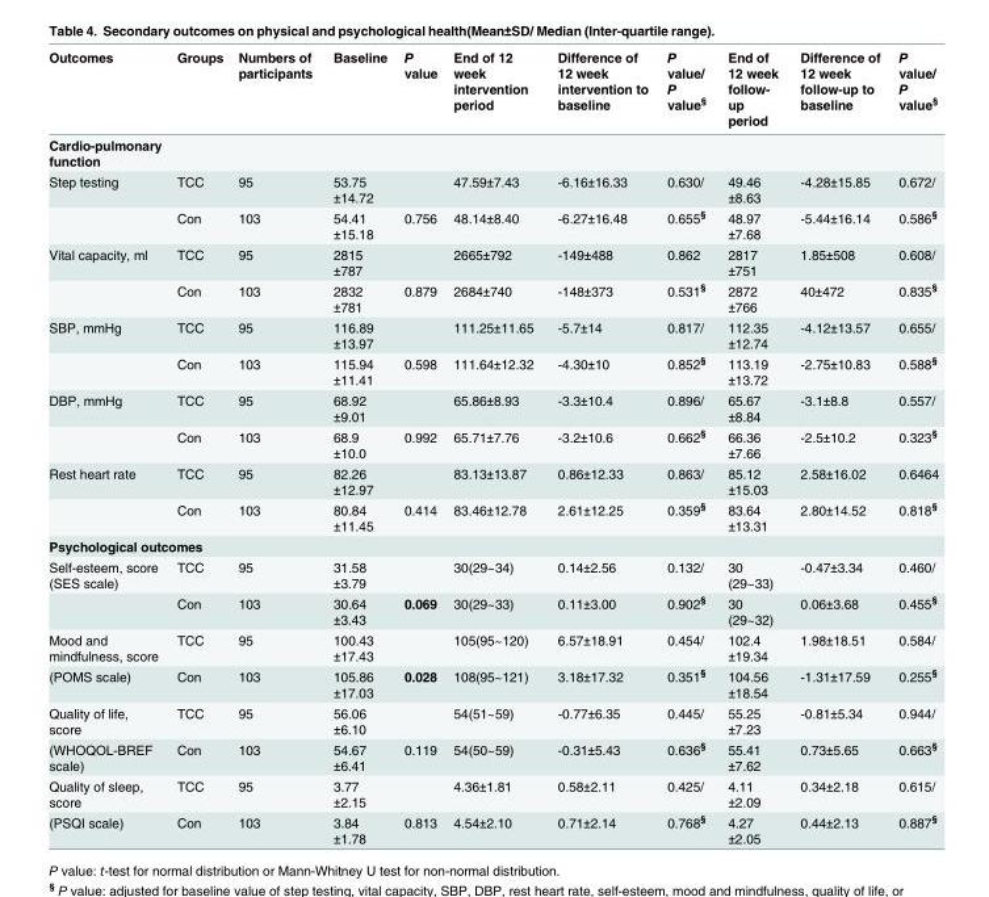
<table><thead><tr><td>Outcomes</td><td>Groups</td><td>Numbers of participants</td><td>Baseline</td><td>P value</td><td>End of 12 week intervention period</td><td>Difference of 12 week intervention to baseline</td><td>P value/ P value<sup>§</sup></td><td>End of 12 week follow- up period</td><td>Difference of 12 week follow-up to baseline</td><td>P value/ P value<sup>§</sup></td></tr></thead><tbody><tr><td colspan="11">Cardio-pulmonary function</td></tr><tr><td rowspan="2">Step testing</td><td>TCC</td><td>95</td><td>53.75 ±14.72</td><td></td><td>47.59±7.43</td><td>-6.16±16.33</td><td>0.630/</td><td>49.46 ±8.63</td><td>-4.28±15.85</td><td>0.672/</td></tr><tr><td>Con</td><td>103</td><td>54.41 ±15.18</td><td>0.756</td><td>48.14±8.40</td><td>-6.27±16.48</td><td>0.655<sup>§</sup></td><td>48.97 ±7.68</td><td>-5.44±16.14</td><td>0.586<sup>§</sup></td></tr><tr><td rowspan="2">Vital capacity, ml</td><td>TCC</td><td>95</td><td>2815 ±787</td><td></td><td>2665±792</td><td>-149±488</td><td>0.862</td><td>2817 ±751</td><td>1.85±508</td><td>0.608/</td></tr><tr><td>Con</td><td>103</td><td>2832 ±781</td><td>0.879</td><td>2684±740</td><td>-148±373</td><td>0.531<sup>§</sup></td><td>2872 ±766</td><td>40±472</td><td>0.835<sup>§</sup></td></tr><tr><td rowspan="2">SBP, mmHg</td><td>TCC</td><td>95</td><td>116.89 ±13.97</td><td></td><td>111.25±11.65</td><td>-5.7±14</td><td>0.817/</td><td>112.35 ±12.74</td><td>-4.12±13.57</td><td>0.655/</td></tr><tr><td>Con</td><td>103</td><td>115.94 ±11.41</td><td>0.598</td><td>111.64±12.32</td><td>-4.30±10</td><td>0.852<sup>§</sup></td><td>113.19 ±13.72</td><td>-2.75±10.83</td><td>0.588<sup>§</sup></td></tr><tr><td rowspan="2">DBP, mmHg</td><td>TCC</td><td>95</td><td>68.92 ±9.01</td><td></td><td>65.86±8.93</td><td>-3.3±10.4</td><td>0.896/</td><td>65.67 ±8.84</td><td>-3.1±8.8</td><td>0.557/</td></tr><tr><td>Con</td><td>103</td><td>68.9 ±10.0</td><td>0.992</td><td>65.71±7.76</td><td>-3.2±10.6</td><td>0.662<sup>§</sup></td><td>66.36 ±7.66</td><td>-2.5±10.2</td><td>0.323<sup>§</sup></td></tr><tr><td rowspan="2">Rest heart rate</td><td>TCC</td><td>95</td><td>82.26 ±12.97</td><td></td><td>83.13±13.87</td><td>0.86±12.33</td><td>0.863/</td><td>85.12 ±15.03</td><td>2.58±16.02</td><td>0.6464</td></tr><tr><td>Con</td><td>103</td><td>80.84 ±11.45</td><td>0.414</td><td>83.46±12.78</td><td>2.61±12.25</td><td>0.359<sup>§</sup></td><td>83.64 ±13.31</td><td>2.80±14.52</td><td>0.818<sup>§</sup></td></tr><tr><td colspan="11">Psychological outcomes</td></tr><tr><td rowspan="2">Self-esteem, score (SES scale)</td><td>TCC</td><td>95</td><td>31.58 ±3.79</td><td></td><td>30(29~34)</td><td>0.14±2.56</td><td>0.132/</td><td>30 (29~33)</td><td>-0.47±3.34</td><td>0.460/</td></tr><tr><td>Con</td><td>103</td><td>30.64 ±3.43</td><td>0.069</td><td>30(29~33)</td><td>0.11±3.00</td><td>0.902<sup>§</sup></td><td>30 (29~32)</td><td>0.06±3.68</td><td>0.455<sup>§</sup></td></tr><tr><td>Mood and mindfulness, score</td><td>TCC</td><td>95</td><td>100.43 ±17.43</td><td></td><td>105(95~120)</td><td>6.57±18.91</td><td>0.454/</td><td>102.4 ±19.34</td><td>1.98±18.51</td><td>0.584/</td></tr><tr><td>(POMS scale)</td><td>Con</td><td>103</td><td>105.86 ±17.03</td><td>0.028</td><td>108(95~121)</td><td>3.18±17.32</td><td>0.351<sup>§</sup></td><td>104.56 ±18.54</td><td>-1.31±17.59</td><td>0.255<sup>§</sup></td></tr><tr><td>Quality of life, score</td><td>TCC</td><td>95</td><td>56.06 ±6.10</td><td></td><td>54(51~59)</td><td>-0.77±6.35</td><td>0.445/</td><td>55.25 ±7.23</td><td>-0.81±5.34</td><td>0.944/</td></tr><tr><td>(WHOQOL-BREF scale)</td><td>Con</td><td>103</td><td>54.67 ±6.41</td><td>0.119</td><td>54(50~59)</td><td>-0.31±5.43</td><td>0.636<sup>§</sup></td><td>55.41 ±7.62</td><td>0.73±5.65</td><td>0.663<sup>§</sup></td></tr><tr><td>Quality of sleep, score</td><td>TCC</td><td>95</td><td>3.77 ±2.15</td><td></td><td>4.36±1.81</td><td>0.58±2.11</td><td>0.425/</td><td>4.11 ±2.09</td><td>0.34±2.18</td><td>0.615/</td></tr><tr><td>(PSQI scale)</td><td>Con</td><td>103</td><td>3.84 ±1.78</td><td>0.813</td><td>4.54±2.10</td><td>0.71±2.14</td><td>0.768<sup>§</sup></td><td>4.27 ±2.05</td><td>0.44±2.13</td><td>0.887<sup>§</sup></td></tr></tbody></table>